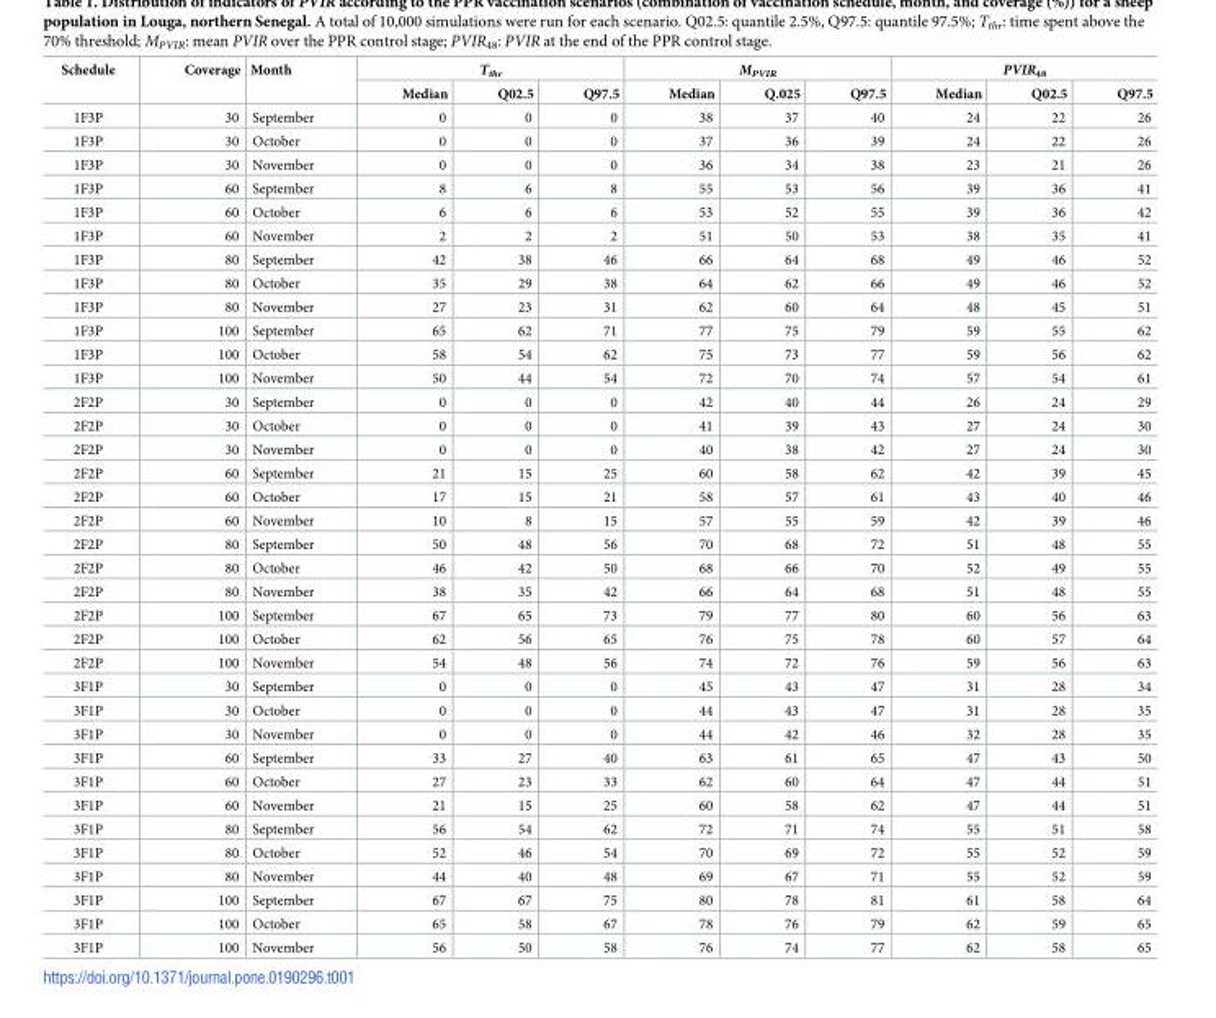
<table><thead><tr><td rowspan="2">Schedule</td><td rowspan="2">Coverage</td><td rowspan="2">Month</td><td colspan="3">T<sub>thr</sub></td><td colspan="3">M<sub>PVIR</sub></td><td colspan="3">PVIR<sub>48</sub></td></tr><tr><td>Median</td><td>Q02.5</td><td>Q97.5</td><td>Median</td><td>Q.025</td><td>Q97.5</td><td>Median</td><td>Q02.5</td><td>Q97.5</td></tr></thead><tbody><tr><td>1F3P</td><td>30</td><td>September</td><td>0</td><td>0</td><td>0</td><td>38</td><td>37</td><td>40</td><td>24</td><td>22</td><td>26</td></tr><tr><td>1F3P</td><td>30</td><td>October</td><td>0</td><td>0</td><td>0</td><td>37</td><td>36</td><td>39</td><td>24</td><td>22</td><td>26</td></tr><tr><td>1F3P</td><td>30</td><td>November</td><td>0</td><td>0</td><td>0</td><td>36</td><td>34</td><td>38</td><td>23</td><td>21</td><td>26</td></tr><tr><td>1F3P</td><td>60</td><td>September</td><td>8</td><td>6</td><td>8</td><td>55</td><td>53</td><td>56</td><td>39</td><td>36</td><td>41</td></tr><tr><td>1F3P</td><td>60</td><td>October</td><td>6</td><td>6</td><td>6</td><td>53</td><td>52</td><td>55</td><td>39</td><td>36</td><td>42</td></tr><tr><td>1F3P</td><td>60</td><td>November</td><td>2</td><td>2</td><td>2</td><td>51</td><td>50</td><td>53</td><td>38</td><td>35</td><td>41</td></tr><tr><td>1F3P</td><td>80</td><td>September</td><td>42</td><td>38</td><td>46</td><td>66</td><td>64</td><td>68</td><td>49</td><td>46</td><td>52</td></tr><tr><td>1F3P</td><td>80</td><td>October</td><td>35</td><td>29</td><td>38</td><td>64</td><td>62</td><td>66</td><td>49</td><td>46</td><td>52</td></tr><tr><td>1F3P</td><td>80</td><td>November</td><td>27</td><td>23</td><td>31</td><td>62</td><td>60</td><td>64</td><td>48</td><td>45</td><td>51</td></tr><tr><td>1F3P</td><td>100</td><td>September</td><td>65</td><td>62</td><td>71</td><td>77</td><td>75</td><td>79</td><td>59</td><td>55</td><td>62</td></tr><tr><td>1F3P</td><td>100</td><td>October</td><td>58</td><td>54</td><td>62</td><td>75</td><td>73</td><td>77</td><td>59</td><td>56</td><td>62</td></tr><tr><td>1F3P</td><td>100</td><td>November</td><td>50</td><td>44</td><td>54</td><td>72</td><td>70</td><td>74</td><td>57</td><td>54</td><td>61</td></tr><tr><td>2F2P</td><td>30</td><td>September</td><td>0</td><td>0</td><td>0</td><td>42</td><td>40</td><td>44</td><td>26</td><td>24</td><td>29</td></tr><tr><td>2F2P</td><td>30</td><td>October</td><td>0</td><td>0</td><td>0</td><td>41</td><td>39</td><td>43</td><td>27</td><td>24</td><td>30</td></tr><tr><td>2F2P</td><td>30</td><td>November</td><td>0</td><td>0</td><td>0</td><td>40</td><td>38</td><td>42</td><td>27</td><td>24</td><td>30</td></tr><tr><td>2F2P</td><td>60</td><td>September</td><td>21</td><td>15</td><td>25</td><td>60</td><td>58</td><td>62</td><td>42</td><td>39</td><td>45</td></tr><tr><td>2F2P</td><td>60</td><td>October</td><td>17</td><td>15</td><td>21</td><td>58</td><td>57</td><td>61</td><td>43</td><td>40</td><td>46</td></tr><tr><td>2F2P</td><td>60</td><td>November</td><td>10</td><td>8</td><td>15</td><td>57</td><td>55</td><td>59</td><td>42</td><td>39</td><td>46</td></tr><tr><td>2F2P</td><td>80</td><td>September</td><td>50</td><td>48</td><td>56</td><td>70</td><td>68</td><td>72</td><td>51</td><td>48</td><td>55</td></tr><tr><td>2F2P</td><td>80</td><td>October</td><td>46</td><td>42</td><td>50</td><td>68</td><td>66</td><td>70</td><td>52</td><td>49</td><td>55</td></tr><tr><td>2F2P</td><td>80</td><td>November</td><td>38</td><td>35</td><td>42</td><td>66</td><td>64</td><td>68</td><td>51</td><td>48</td><td>55</td></tr><tr><td>2F2P</td><td>100</td><td>September</td><td>67</td><td>65</td><td>73</td><td>79</td><td>77</td><td>80</td><td>60</td><td>56</td><td>63</td></tr><tr><td>2F2P</td><td>100</td><td>October</td><td>62</td><td>56</td><td>65</td><td>76</td><td>75</td><td>78</td><td>60</td><td>57</td><td>64</td></tr><tr><td>2F2P</td><td>100</td><td>November</td><td>54</td><td>48</td><td>56</td><td>74</td><td>72</td><td>76</td><td>59</td><td>56</td><td>63</td></tr><tr><td>3F1P</td><td>30</td><td>September</td><td>0</td><td>0</td><td>0</td><td>45</td><td>43</td><td>47</td><td>31</td><td>28</td><td>34</td></tr><tr><td>3F1P</td><td>30</td><td>October</td><td>0</td><td>0</td><td>0</td><td>44</td><td>43</td><td>47</td><td>31</td><td>28</td><td>35</td></tr><tr><td>3F1P</td><td>30</td><td>November</td><td>0</td><td>0</td><td>0</td><td>44</td><td>42</td><td>46</td><td>32</td><td>28</td><td>35</td></tr><tr><td>3F1P</td><td>60</td><td>September</td><td>33</td><td>27</td><td>40</td><td>63</td><td>61</td><td>65</td><td>47</td><td>43</td><td>50</td></tr><tr><td>3F1P</td><td>60</td><td>October</td><td>27</td><td>23</td><td>33</td><td>62</td><td>60</td><td>64</td><td>47</td><td>44</td><td>51</td></tr><tr><td>3F1P</td><td>60</td><td>November</td><td>21</td><td>15</td><td>25</td><td>60</td><td>58</td><td>62</td><td>47</td><td>44</td><td>51</td></tr><tr><td>3F1P</td><td>80</td><td>September</td><td>56</td><td>54</td><td>62</td><td>72</td><td>71</td><td>74</td><td>55</td><td>51</td><td>58</td></tr><tr><td>3F1P</td><td>80</td><td>October</td><td>52</td><td>46</td><td>54</td><td>70</td><td>69</td><td>72</td><td>55</td><td>52</td><td>59</td></tr><tr><td>3F1P</td><td>80</td><td>November</td><td>44</td><td>40</td><td>48</td><td>69</td><td>67</td><td>71</td><td>55</td><td>52</td><td>59</td></tr><tr><td>3F1P</td><td>100</td><td>September</td><td>67</td><td>67</td><td>75</td><td>80</td><td>78</td><td>81</td><td>61</td><td>58</td><td>64</td></tr><tr><td>3F1P</td><td>100</td><td>October</td><td>65</td><td>58</td><td>67</td><td>78</td><td>76</td><td>79</td><td>62</td><td>59</td><td>65</td></tr><tr><td>3F1P</td><td>100</td><td>November</td><td>56</td><td>50</td><td>58</td><td>76</td><td>74</td><td>77</td><td>62</td><td>58</td><td>65</td></tr></tbody></table>